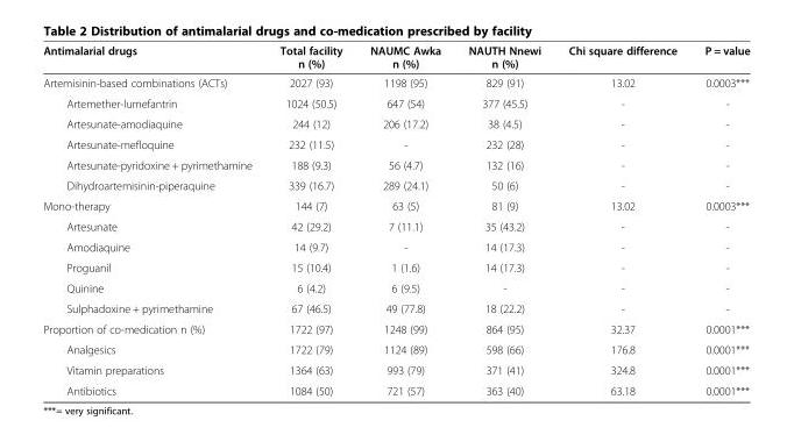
<table><thead><tr><td>Antimalarial drugs</td><td>Total facility n (%)</td><td>NAUMC Awka n (%)</td><td>NAUTH Nnewi n (%)</td><td>Chi square difference</td><td>P = value</td></tr></thead><tbody><tr><td>Artemisinin-based combinations (ACTs)</td><td>2027 (93)</td><td>1198 (95)</td><td>829 (91)</td><td>13.02</td><td>0.0003***</td></tr><tr><td>Artemether-lumefantrin</td><td>1024 (50.5)</td><td>647 (54)</td><td>377 (45.5)</td><td>-</td><td>-</td></tr><tr><td>Artesunate-amodiaquine</td><td>244 (12)</td><td>206 (17.2)</td><td>38 (4.5)</td><td>-</td><td>-</td></tr><tr><td>Artesunate-mefloquine</td><td>232 (11.5)</td><td>-</td><td>232 (28)</td><td>-</td><td>-</td></tr><tr><td>Artesunate-pyridoxine + pyrimethamine</td><td>188 (9.3)</td><td>56 (4.7)</td><td>132 (16)</td><td>-</td><td>-</td></tr><tr><td>Dihydroartemisinin-piperaquine</td><td>339 (16.7)</td><td>289 (24.1)</td><td>50 (6)</td><td>-</td><td>-</td></tr><tr><td>Mono-therapy</td><td>144 (7)</td><td>63 (5)</td><td>81 (9)</td><td>13.02</td><td>0.0003***</td></tr><tr><td>Artesunate</td><td>42 (29.2)</td><td>7 (11.1)</td><td>35 (43.2)</td><td>-</td><td>-</td></tr><tr><td>Amodiaquine</td><td>14 (9.7)</td><td>-</td><td>14 (17.3)</td><td>-</td><td>-</td></tr><tr><td>Proguanil</td><td>15 (10.4)</td><td>1 (1.6)</td><td>14 (17.3)</td><td>-</td><td>-</td></tr><tr><td>Quinine</td><td>6 (4.2)</td><td>6 (9.5)</td><td>-</td><td>-</td><td>-</td></tr><tr><td>Sulphadoxine + pyrimethamine</td><td>67 (46.5)</td><td>49 (77.8)</td><td>18 (22.2)</td><td>-</td><td>-</td></tr><tr><td>Proportion of co-medication n (%)</td><td>1722 (97)</td><td>1248 (99)</td><td>864 (95)</td><td>32.37</td><td>0.0001***</td></tr><tr><td>Analgesics</td><td>1722 (79)</td><td>1124 (89)</td><td>598 (66)</td><td>176.8</td><td>0.0001***</td></tr><tr><td>Vitamin preparations</td><td>1364 (63)</td><td>993 (79)</td><td>371 (41)</td><td>324.8</td><td>0.0001***</td></tr><tr><td>Antibiotics</td><td>1084 (50)</td><td>721 (57)</td><td>363 (40)</td><td>63.18</td><td>0.0001***</td></tr></tbody></table>